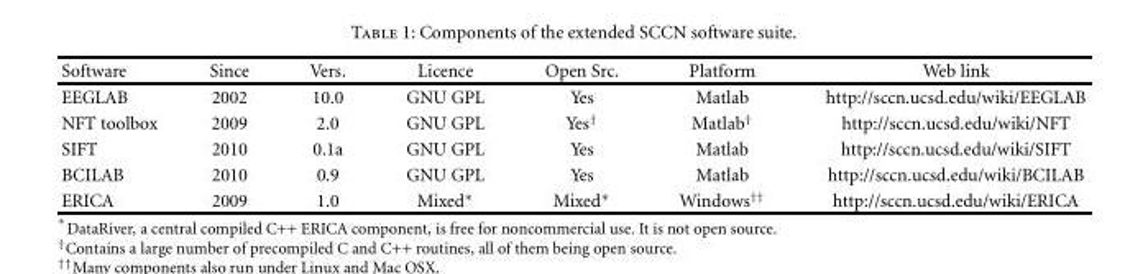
<table><thead><tr><td>Software</td><td>Since</td><td>Vers.</td><td>Licence</td><td>Open Src.</td><td>Platform</td><td>Web link</td></tr></thead><tbody><tr><td>EEGLAB</td><td>2002</td><td>10.0</td><td>GNU GPL</td><td>Yes</td><td>Matlab</td><td>http://sccn.ucsd.edu/wiki/EEGLAB</td></tr><tr><td>NFT toolbox</td><td>2009</td><td>2.0</td><td>GNU GPL</td><td>Yes<sup>†</sup></td><td>Matlab<sup>†</sup></td><td>http://sccn.ucsd.edu/wiki/NFT</td></tr><tr><td>SIFT</td><td>2010</td><td>0.1a</td><td>GNU GPL</td><td>Yes</td><td>Matlab</td><td>http://sccn.ucsd.edu/wiki/SIFT</td></tr><tr><td>BCILAB</td><td>2010</td><td>0.9</td><td>GNU GPL</td><td>Yes</td><td>Matlab</td><td>http://sccn.ucsd.edu/wiki/BCILAB</td></tr><tr><td>ERICA</td><td>2009</td><td>1.0</td><td>Mixed∗</td><td>Mixed∗</td><td>Windows<sup>††</sup></td><td>http://sccn.ucsd.edu/wiki/ERICA</td></tr></tbody></table>